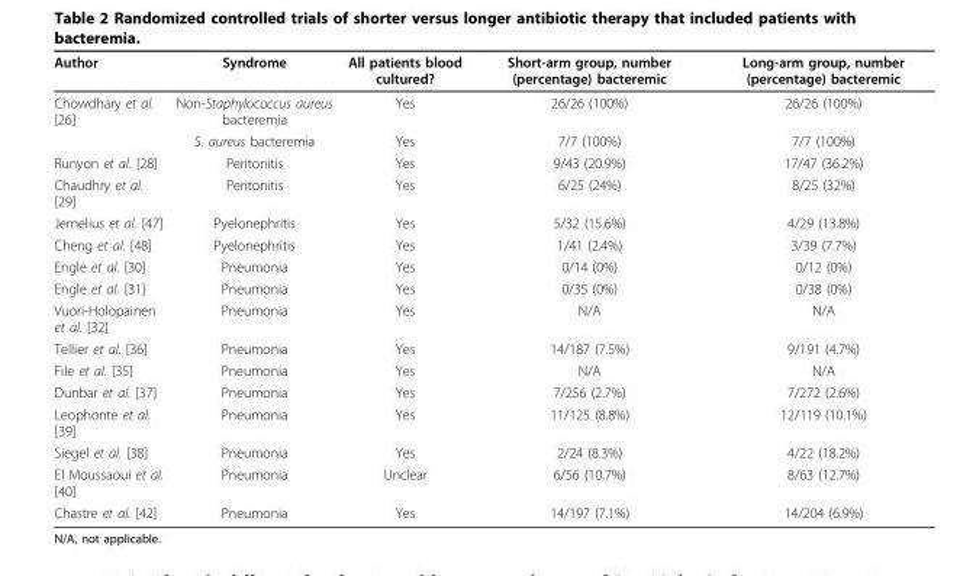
<table><thead><tr><td>Author</td><td>Syndrome</td><td>All patients blood cultured?</td><td>Short-arm group, number (percentage) bacteremic</td><td>Long-arm group, number (percentage) bacteremic</td></tr></thead><tbody><tr><td rowspan="2">Chowdhary et al. [26]</td><td>Non-Staphylococcus aureus bacteremia</td><td>Yes</td><td>26/26 (100%)</td><td>26/26 (100%)</td></tr><tr><td>S. aureus bacteremia</td><td>Yes</td><td>7/7 (100%)</td><td>7/7 (100%)</td></tr><tr><td>Runyon et al. [28]</td><td>Peritonitis</td><td>Yes</td><td>9/43 (20.9%)</td><td>17/47 (36.2%)</td></tr><tr><td>Chaudhry et al. [29]</td><td>Peritonitis</td><td>Yes</td><td>6/25 (24%)</td><td>8/25 (32%)</td></tr><tr><td>Jernelius et al. [47]</td><td>Pyelonephritis</td><td>Yes</td><td>5/32 (15.6%)</td><td>4/29 (13.8%)</td></tr><tr><td>Cheng et al. [48]</td><td>Pyelonephritis</td><td>Yes</td><td>1/41 (2.4%)</td><td>3/39 (7.7%)</td></tr><tr><td>Engle et al. [30]</td><td>Pneumonia</td><td>Yes</td><td>0/14 (0%)</td><td>0/12 (0%)</td></tr><tr><td>Engle et al. [31]</td><td>Pneumonia</td><td>Yes</td><td>0/35 (0%)</td><td>0/38 (0%)</td></tr><tr><td>Vuori-Holopainen et al. [32]</td><td>Pneumonia</td><td>Yes</td><td>N/A</td><td>N/A</td></tr><tr><td>Tellier et al. [36]</td><td>Pneumonia</td><td>Yes</td><td>14/187 (7.5%)</td><td>9/191 (4.7%)</td></tr><tr><td>File et al. [35]</td><td>Pneumonia</td><td>Yes</td><td>N/A</td><td>N/A</td></tr><tr><td>Dunbar et al. [37]</td><td>Pneumonia</td><td>Yes</td><td>7/256 (2.7%)</td><td>7/272 (2.6%)</td></tr><tr><td>Leophonte et al. [39]</td><td>Pneumonia</td><td>Yes</td><td>11/125 (8.8%)</td><td>12/119 (10.1%)</td></tr><tr><td>Siegel et al. [38]</td><td>Pneumonia</td><td>Yes</td><td>2/24 (8.3%)</td><td>4/22 (18.2%)</td></tr><tr><td>El Moussaoui et al. [40]</td><td>Pneumonia</td><td>Unclear</td><td>6/56 (10.7%)</td><td>8/63 (12.7%)</td></tr><tr><td>Chastre et al. [42]</td><td>Pneumonia</td><td>Yes</td><td>14/197 (7.1%)</td><td>14/204 (6.9%)</td></tr></tbody></table>